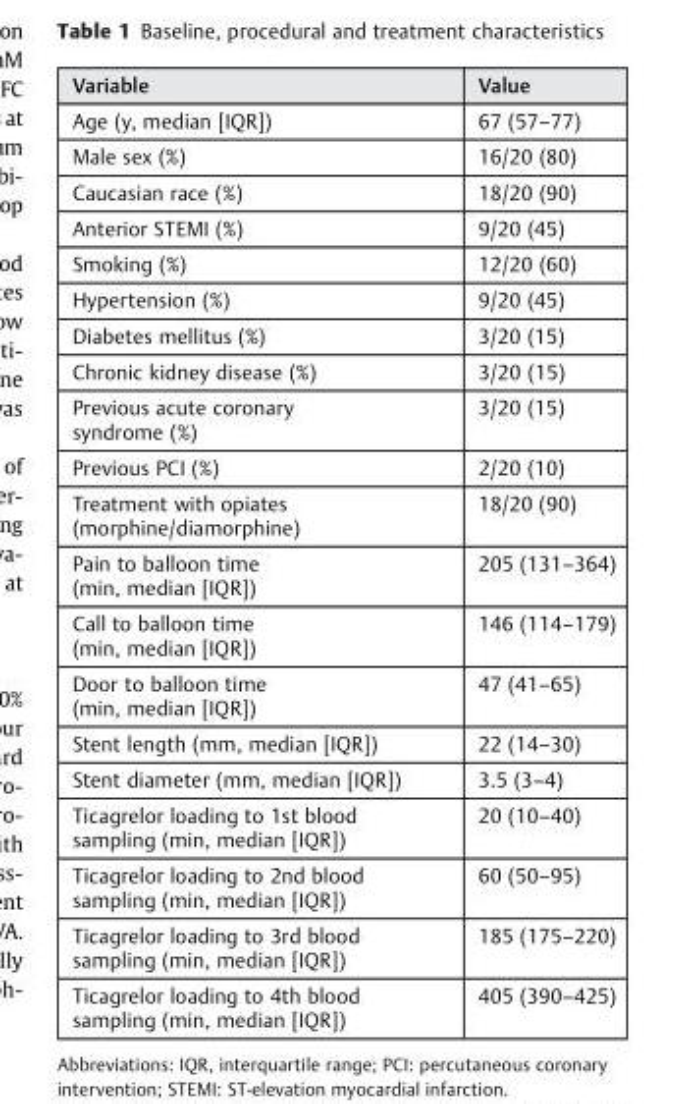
<table><thead><tr><td>Variable</td><td>Value</td></tr></thead><tbody><tr><td>Age (y, median [IQR])</td><td>67 (57–77)</td></tr><tr><td>Male sex (%)</td><td>16/20 (80)</td></tr><tr><td>Caucasian race (%)</td><td>18/20 (90)</td></tr><tr><td>Anterior STEMI (%)</td><td>9/20 (45)</td></tr><tr><td>Smoking (%)</td><td>12/20 (60)</td></tr><tr><td>Hypertension (%)</td><td>9/20 (45)</td></tr><tr><td>Diabetes mellitus (%)</td><td>3/20 (15)</td></tr><tr><td>Chronic kidney disease (%)</td><td>3/20 (15)</td></tr><tr><td>Previous acute coronary syndrome (%)</td><td>3/20 (15)</td></tr><tr><td>Previous PCI (%)</td><td>2/20 (10)</td></tr><tr><td>Treatment with opiates (morphine/diamorphine)</td><td>18/20 (90)</td></tr><tr><td>Pain to balloon time (min, median [IQR])</td><td>205 (131–364)</td></tr><tr><td>Call to balloon time (min, median [IQR])</td><td>146 (114–179)</td></tr><tr><td>Door to balloon time (min, median [IQR])</td><td>47 (41–65)</td></tr><tr><td>Stent length (mm, median [IQR])</td><td>22 (14–30)</td></tr><tr><td>Stent diameter (mm, median [IQR])</td><td>3.5 (3–4)</td></tr><tr><td>Ticagrelor loading to 1st blood sampling (min, median [IQR])</td><td>20 (10–40)</td></tr><tr><td>Ticagrelor loading to 2nd blood sampling (min, median [IQR])</td><td>60 (50–95)</td></tr><tr><td>Ticagrelor loading to 3rd blood sampling (min, median [IQR])</td><td>185 (175–220)</td></tr><tr><td>Ticagrelor loading to 4th blood sampling (min, median [IQR])</td><td>405 (390–425)</td></tr></tbody></table>